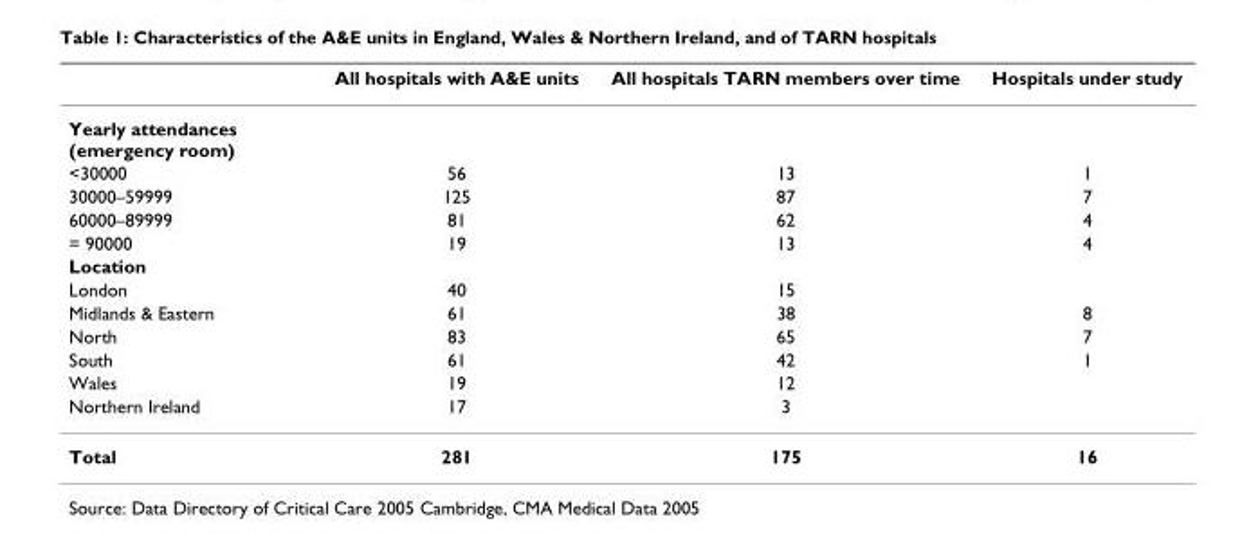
<table><thead><tr><td></td><td>All hospitals with A&amp;E units</td><td>All hospitals TARN members over time</td><td>Hospitals under study</td></tr></thead><tbody><tr><td colspan="4">Yearly attendances (emergency room)</td></tr><tr><td>&lt;30000</td><td>56</td><td>13</td><td>1</td></tr><tr><td>30000–59999</td><td>125</td><td>87</td><td>7</td></tr><tr><td>60000–89999</td><td>81</td><td>62</td><td>4</td></tr><tr><td>= 90000</td><td>19</td><td>13</td><td>4</td></tr><tr><td colspan="4">Location</td></tr><tr><td>London</td><td>40</td><td>15</td><td></td></tr><tr><td>Midlands &amp; Eastern</td><td>61</td><td>38</td><td>8</td></tr><tr><td>North</td><td>83</td><td>65</td><td>7</td></tr><tr><td>South</td><td>61</td><td>42</td><td>1</td></tr><tr><td>Wales</td><td>19</td><td>12</td><td></td></tr><tr><td>Northern Ireland</td><td>17</td><td>3</td><td></td></tr><tr><td>Total</td><td>281</td><td>175</td><td>16</td></tr></tbody></table>